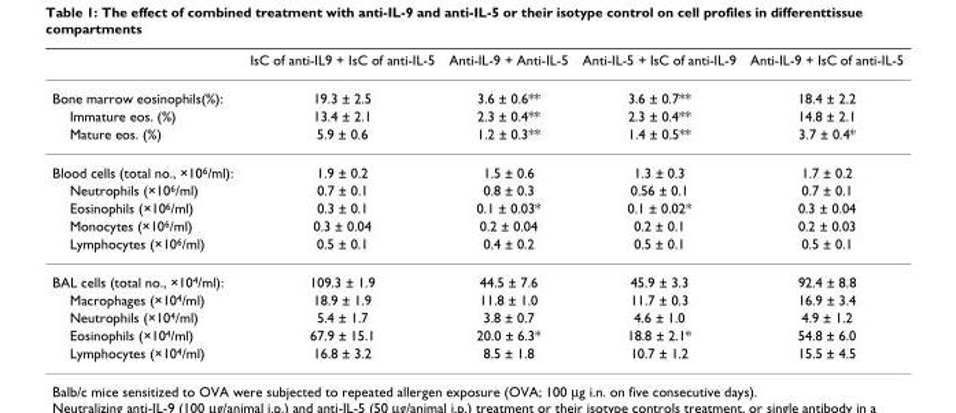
<table><thead><tr><td></td><td>IsC of anti-IL9 + IsC of anti-IL-5</td><td>Anti-IL-9 + Anti-IL-5</td><td>Anti-IL-5 + IsC of anti-IL-9</td><td>Anti-IL-9 + IsC of anti-IL-5</td></tr></thead><tbody><tr><td>Bone marrow eosinophils(%):</td><td>19.3 ± 2.5</td><td>3.6 ± 0.6**</td><td>3.6 ± 0.7**</td><td>18.4 ± 2.2</td></tr><tr><td>Immature eos. (%)</td><td>13.4 ± 2.1</td><td>2.3 ± 0.4**</td><td>2.3 ± 0.4**</td><td>14.8 ± 2.1</td></tr><tr><td>Mature eos. (%)</td><td>5.9 ± 0.6</td><td>1.2 ± 0.3**</td><td>1.4 ± 0.5**</td><td>3.7 ± 0.4*</td></tr><tr><td>Blood cells (total no., ×10<sup>6</sup>/ml):</td><td>1.9 ± 0.2</td><td>1.5 ± 0.6</td><td>1.3 ± 0.3</td><td>1.7 ± 0.2</td></tr><tr><td>Neutrophils (×10<sup>6</sup>/ml)</td><td>0.7 ± 0.1</td><td>0.8 ± 0.3</td><td>0.56 ± 0.1</td><td>0.7 ± 0.1</td></tr><tr><td>Eosinophils (×10<sup>6</sup>/ml)</td><td>0.3 ± 0.1</td><td>0.1 ± 0.03*</td><td>0.1 ± 0.02*</td><td>0.3 ± 0.04</td></tr><tr><td>Monocytes (×10<sup>6</sup>/ml)</td><td>0.3 ± 0.04</td><td>0.2 ± 0.04</td><td>0.2 ± 0.1</td><td>0.2 ± 0.03</td></tr><tr><td>Lymphocytes (×10<sup>6</sup>/ml)</td><td>0.5 ± 0.1</td><td>0.4 ± 0.2</td><td>0.5 ± 0.1</td><td>0.5 ± 0.1</td></tr><tr><td>BAL cells (total no., ×10<sup>4</sup>/ml):</td><td>109.3 ± 1.9</td><td>44.5 ± 7.6</td><td>45.9 ± 3.3</td><td>92.4 ± 8.8</td></tr><tr><td>Macrophages (×10<sup>4</sup>/ml)</td><td>18.9 ± 1.9</td><td>11.8 ± 1.0</td><td>11.7 ± 0.3</td><td>16.9 ± 3.4</td></tr><tr><td>Neutrophils (×10<sup>4</sup>/ml)</td><td>5.4 ± 1.7</td><td>3.8 ± 0.7</td><td>4.6 ± 1.0</td><td>4.9 ± 1.2</td></tr><tr><td>Eosinophils (×10<sup>4</sup>/ml)</td><td>67.9 ± 15.1</td><td>20.0 ± 6.3*</td><td>18.8 ± 2.1*</td><td>54.8 ± 6.0</td></tr><tr><td>Lymphocytes (×10<sup>4</sup>/ml)</td><td>16.8 ± 3.2</td><td>8.5 ± 1.8</td><td>10.7 ± 1.2</td><td>15.5 ± 4.5</td></tr></tbody></table>